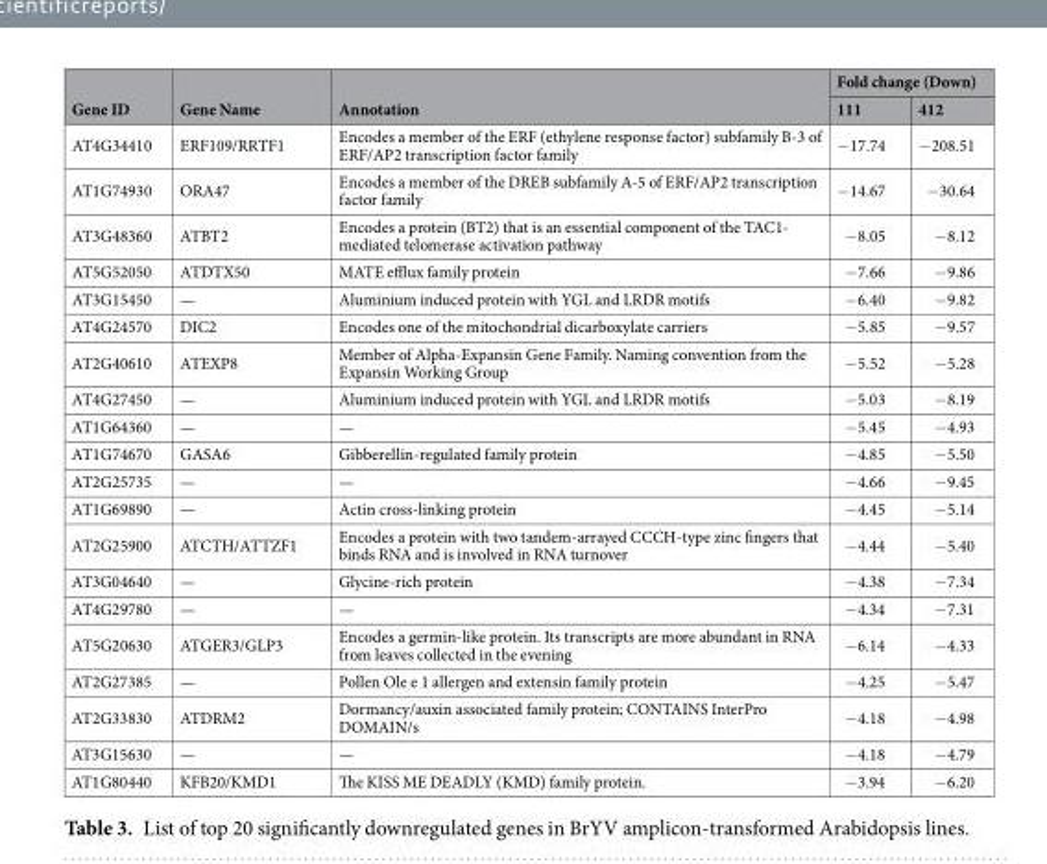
<table><thead><tr><td rowspan="2">Gene ID</td><td rowspan="2">Gene Name</td><td rowspan="2">Annotation</td><td colspan="2">Fold change (Down)</td></tr><tr><td>111</td><td>412</td></tr></thead><tbody><tr><td>AT4G34410</td><td>ERF109/RRTF1</td><td>Encodes a member of the ERF (ethylene response factor) subfamily B-3 of ERF/AP2 transcription factor family</td><td>−17.74</td><td>−208.51</td></tr><tr><td>AT1G74930</td><td>ORA47</td><td>Encodes a member of the DREB subfamily A-5 of ERF/AP2 transcription factor family</td><td>−14.67</td><td>−30.64</td></tr><tr><td>AT3G48360</td><td>ATBT2</td><td>Encodes a protein (BT2) that is an essential component of the TAC1- mediated telomerase activation pathway</td><td>−8.05</td><td>−8.12</td></tr><tr><td>AT5G52050</td><td>ATDTX50</td><td>MATE efflux family protein</td><td>−7.66</td><td>−9.86</td></tr><tr><td>AT3G15450</td><td>—</td><td>Aluminium induced protein with YGL and LRDR motifs</td><td>−6.40</td><td>−9.82</td></tr><tr><td>AT4G24570</td><td>DIC2</td><td>Encodes one of the mitochondrial dicarboxylate carriers</td><td>−5.85</td><td>−9.57</td></tr><tr><td>AT2G40610</td><td>ATEXP8</td><td>Member of Alpha-Expansin Gene Family. Naming convention from the Expansin Working Group</td><td>−5.52</td><td>−5.28</td></tr><tr><td>AT4G27450</td><td>—</td><td>Aluminium induced protein with YGL and LRDR motifs</td><td>−5.03</td><td>−8.19</td></tr><tr><td>AT1G64360</td><td>—</td><td>—</td><td>−5.45</td><td>−4.93</td></tr><tr><td>AT1G74670</td><td>GASA6</td><td>Gibberellin-regulated family protein</td><td>−4.85</td><td>−5.50</td></tr><tr><td>AT2G25735</td><td>—</td><td>—</td><td>−4.66</td><td>−9.45</td></tr><tr><td>AT1G69890</td><td>—</td><td>Actin cross-linking protein</td><td>−4.45</td><td>−5.14</td></tr><tr><td>AT2G25900</td><td>ATCTH/ATTZF1</td><td>Encodes a protein with two tandem-arrayed CCCH-type zinc fingers that binds RNA and is involved in RNA turnover</td><td>−4.44</td><td>−5.40</td></tr><tr><td>AT3G04640</td><td>—</td><td>Glycine-rich protein</td><td>−4.38</td><td>−7.34</td></tr><tr><td>AT4G29780</td><td>—</td><td>—</td><td>−4.34</td><td>−7.31</td></tr><tr><td>AT5G20630</td><td>ATGER3/GLP3</td><td>Encodes a germin-like protein. Its transcripts are more abundant in RNA from leaves collected in the evening</td><td>−6.14</td><td>−4.33</td></tr><tr><td>AT2G27385</td><td>—</td><td>Pollen Ole e 1 allergen and extensin family protein</td><td>−4.25</td><td>−5.47</td></tr><tr><td>AT2G33830</td><td>ATDRM2</td><td>Dormancy/auxin associated family protein; CONTAINS InterPro DOMAIN/s</td><td>−4.18</td><td>−4.98</td></tr><tr><td>AT3G15630</td><td>—</td><td>—</td><td>−4.18</td><td>−4.79</td></tr><tr><td>AT1G80440</td><td>KFB20/KMD1</td><td>The KISS ME DEADLY (KMD) family protein.</td><td>−3.94</td><td>−6.20</td></tr></tbody></table>